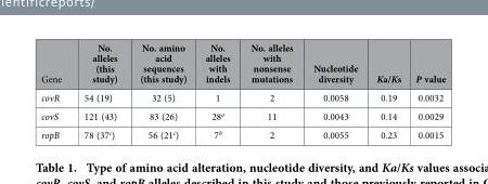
<table><thead><tr><td>Gene</td><td>No. alleles (this study)</td><td>No. amino acid sequences (this study)</td><td>No. alleles with indels</td><td>No. alleles with nonsense mutations</td><td>Nucleotide diversity</td><td>Ka/Ks</td><td>P value</td></tr></thead><tbody><tr><td>covR</td><td>54 (19)</td><td>32 (5)</td><td>1</td><td>2</td><td>0.0058</td><td>0.19</td><td>0.0032</td></tr><tr><td>covS</td><td>121 (43)</td><td>83 (26)</td><td>28<sup>a</sup></td><td>11</td><td>0.0043</td><td>0.14</td><td>0.0029</td></tr><tr><td>ropB</td><td>78 (37<sup>c</sup>)</td><td>56 (21<sup>c</sup>)</td><td>7<sup>b</sup></td><td>2</td><td>0.0055</td><td>0.23</td><td>0.0015</td></tr></tbody></table>